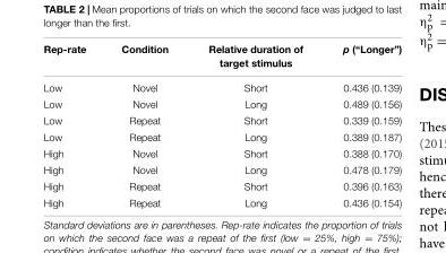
<table><thead><tr><td>Rep-rate</td><td>Condition</td><td>Relative duration of target stimulus</td><td>p (“Longer”)</td></tr></thead><tbody><tr><td>Low</td><td>Novel</td><td>Short</td><td>0.436 (0.139)</td></tr><tr><td>Low</td><td>Novel</td><td>Long</td><td>0.489 (0.156)</td></tr><tr><td>Low</td><td>Repeat</td><td>Short</td><td>0.339 (0.159)</td></tr><tr><td>Low</td><td>Repeat</td><td>Long</td><td>0.389 (0.187)</td></tr><tr><td>High</td><td>Novel</td><td>Short</td><td>0.388 (0.170)</td></tr><tr><td>High</td><td>Novel</td><td>Long</td><td>0.478 (0.179)</td></tr><tr><td>High</td><td>Repeat</td><td>Short</td><td>0.396 (0.163)</td></tr><tr><td>High</td><td>Repeat</td><td>Long</td><td>0.436 (0.154)</td></tr></tbody></table>